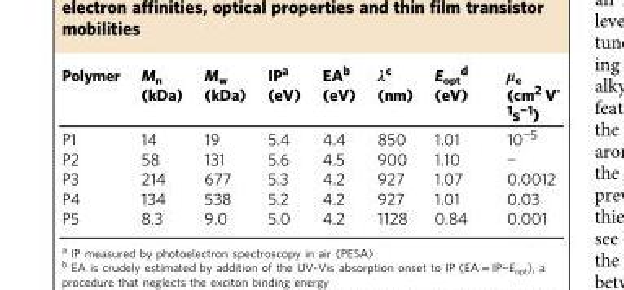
<table><thead><tr><td>Polymer</td><td>M<sub>n</sub> (kDa)</td><td>M<sub>w</sub> (kDa)</td><td>IP<sup>a</sup> (eV)</td><td>EA<sup>b</sup> (eV)</td><td>λ<sup>c</sup> (nm)</td><td>E<sub>opt</sub><sup>d</sup> (eV)</td><td>μ<sub>e</sub> (cm<sup>2</sup> V<sup>- 1</sup>s<sup>−1</sup>)</td></tr></thead><tbody><tr><td>P1</td><td>14</td><td>19</td><td>5.4</td><td>4.4</td><td>850</td><td>1.01</td><td>10<sup>−5</sup></td></tr><tr><td>P2</td><td>58</td><td>131</td><td>5.6</td><td>4.5</td><td>900</td><td>1.10</td><td>−</td></tr><tr><td>P3</td><td>214</td><td>677</td><td>5.3</td><td>4.2</td><td>927</td><td>1.07</td><td>0.0012</td></tr><tr><td>P4</td><td>134</td><td>538</td><td>5.2</td><td>4.2</td><td>927</td><td>1.01</td><td>0.03</td></tr><tr><td>P5</td><td>8.3</td><td>9.0</td><td>5.0</td><td>4.2</td><td>1128</td><td>0.84</td><td>0.001</td></tr></tbody></table>